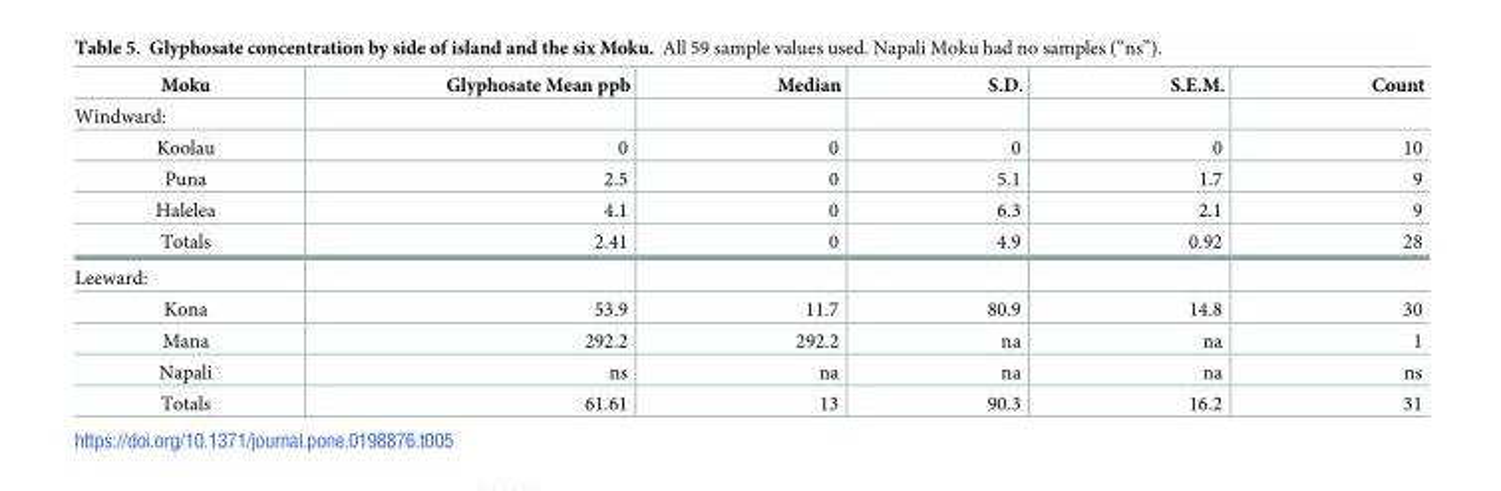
<table><thead><tr><td>Moku</td><td>Glyphosate Mean ppb</td><td>Median</td><td>S.D.</td><td>S.E.M.</td><td>Count</td></tr></thead><tbody><tr><td colspan="6">Windward:</td></tr><tr><td>Koolau</td><td>0</td><td>0</td><td>0</td><td>0</td><td>10</td></tr><tr><td>Puna</td><td>2.5</td><td>0</td><td>5.1</td><td>1.7</td><td>9</td></tr><tr><td>Halelea</td><td>4.1</td><td>0</td><td>6.3</td><td>2.1</td><td>9</td></tr><tr><td>Totals</td><td>2.41</td><td>0</td><td>4.9</td><td>0.92</td><td>28</td></tr><tr><td colspan="6">Leeward:</td></tr><tr><td>Kona</td><td>53.9</td><td>11.7</td><td>80.9</td><td>14.8</td><td>30</td></tr><tr><td>Mana</td><td>292.2</td><td>292.2</td><td>na</td><td>na</td><td>1</td></tr><tr><td>Napali</td><td>ns</td><td>na</td><td>na</td><td>na</td><td>ns</td></tr><tr><td>Totals</td><td>61.61</td><td>13</td><td>90.3</td><td>16.2</td><td>31</td></tr></tbody></table>